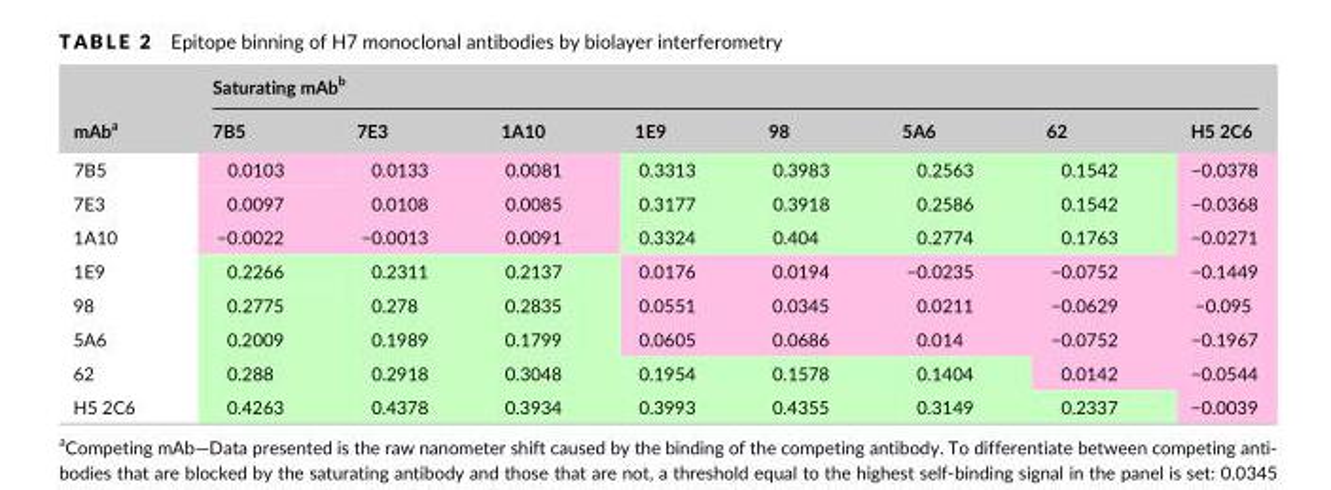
<table><thead><tr><td rowspan="2">mAb<sup>a</sup></td><td colspan="8">Saturating mAb<sup>b</sup></td></tr><tr><td>7B5</td><td>7E3</td><td>1A10</td><td>1E9</td><td>98</td><td>5A6</td><td>62</td><td>H5 2C6</td></tr></thead><tbody><tr><td>7B5</td><td>0.0103</td><td>0.0133</td><td>0.0081</td><td>0.3313</td><td>0.3983</td><td>0.2563</td><td>0.1542</td><td>−0.0378</td></tr><tr><td>7E3</td><td>0.0097</td><td>0.0108</td><td>0.0085</td><td>0.3177</td><td>0.3918</td><td>0.2586</td><td>0.1542</td><td>−0.0368</td></tr><tr><td>1A10</td><td>−0.0022</td><td>−0.0013</td><td>0.0091</td><td>0.3324</td><td>0.404</td><td>0.2774</td><td>0.1763</td><td>−0.0271</td></tr><tr><td>1E9</td><td>0.2266</td><td>0.2311</td><td>0.2137</td><td>0.0176</td><td>0.0194</td><td>−0.0235</td><td>−0.0752</td><td>−0.1449</td></tr><tr><td>98</td><td>0.2775</td><td>0.278</td><td>0.2835</td><td>0.0551</td><td>0.0345</td><td>0.0211</td><td>−0.0629</td><td>−0.095</td></tr><tr><td>5A6</td><td>0.2009</td><td>0.1989</td><td>0.1799</td><td>0.0605</td><td>0.0686</td><td>0.014</td><td>−0.0752</td><td>−0.1967</td></tr><tr><td>62</td><td>0.288</td><td>0.2918</td><td>0.3048</td><td>0.1954</td><td>0.1578</td><td>0.1404</td><td>0.0142</td><td>−0.0544</td></tr><tr><td>H5 2C6</td><td>0.4263</td><td>0.4378</td><td>0.3934</td><td>0.3993</td><td>0.4355</td><td>0.3149</td><td>0.2337</td><td>−0.0039</td></tr></tbody></table>